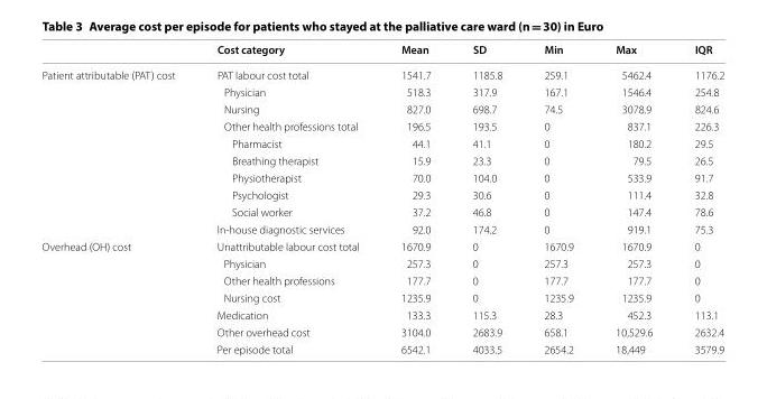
<table><thead><tr><td></td><td>Cost category</td><td>Mean</td><td>SD</td><td>Min</td><td>Max</td><td>IQR</td></tr></thead><tbody><tr><td rowspan="10">Patient attributable (PAT) cost</td><td>PAT labour cost total</td><td>1541.7</td><td>1185.8</td><td>259.1</td><td>5462.4</td><td>1176.2</td></tr><tr><td>Physician</td><td>518.3</td><td>317.9</td><td>167.1</td><td>1546.4</td><td>254.8</td></tr><tr><td>Nursing</td><td>827.0</td><td>698.7</td><td>74.5</td><td>3078.9</td><td>824.6</td></tr><tr><td>Other health professions total</td><td>196.5</td><td>193.5</td><td>0</td><td>837.1</td><td>226.3</td></tr><tr><td>Pharmacist</td><td>44.1</td><td>41.1</td><td>0</td><td>180.2</td><td>29.5</td></tr><tr><td>Breathing therapist</td><td>15.9</td><td>23.3</td><td>0</td><td>79.5</td><td>26.5</td></tr><tr><td>Physiotherapist</td><td>70.0</td><td>104.0</td><td>0</td><td>533.9</td><td>91.7</td></tr><tr><td>Psychologist</td><td>29.3</td><td>30.6</td><td>0</td><td>111.4</td><td>32.8</td></tr><tr><td>Social worker</td><td>37.2</td><td>46.8</td><td>0</td><td>147.4</td><td>78.6</td></tr><tr><td>In-house diagnostic services</td><td>92.0</td><td>174.2</td><td>0</td><td>919.1</td><td>75.3</td></tr><tr><td rowspan="7">Overhead (OH) cost</td><td>Unattributable labour cost total</td><td>1670.9</td><td>0</td><td>1670.9</td><td>1670.9</td><td>0</td></tr><tr><td>Physician</td><td>257.3</td><td>0</td><td>257.3</td><td>257.3</td><td>0</td></tr><tr><td>Other health professions</td><td>177.7</td><td>0</td><td>177.7</td><td>177.7</td><td>0</td></tr><tr><td>Nursing cost</td><td>1235.9</td><td>0</td><td>1235.9</td><td>1235.9</td><td>0</td></tr><tr><td>Medication</td><td>133.3</td><td>115.3</td><td>28.3</td><td>452.3</td><td>113.1</td></tr><tr><td>Other overhead cost</td><td>3104.0</td><td>2683.9</td><td>658.1</td><td>10,529.6</td><td>2632.4</td></tr><tr><td>Per episode total</td><td>6542.1</td><td>4033.5</td><td>2654.2</td><td>18,449</td><td>3579.9</td></tr></tbody></table>